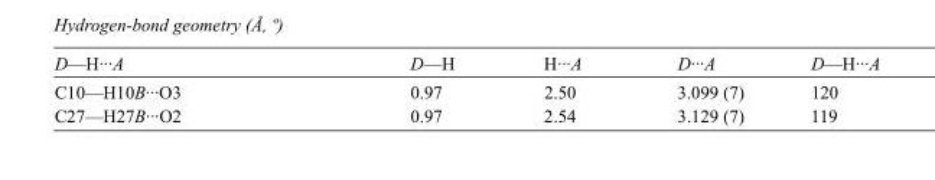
<table><tbody><tr><td>D—H···A</td><td>D—H</td><td>H···A</td><td>D···A</td><td>D—H···A</td></tr><tr><td>C10—H10B···O3</td><td>0.97</td><td>2.50</td><td>3.099 (7)</td><td>120</td></tr><tr><td>C27—H27B···O2</td><td>0.97</td><td>2.54</td><td>3.129 (7)</td><td>119</td></tr></tbody></table>